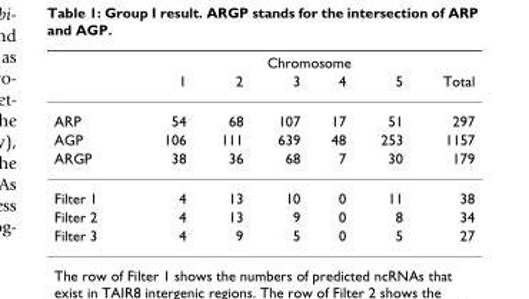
<table><thead><tr><td rowspan="2"></td><td colspan="6">Chromosome</td></tr><tr><td>1</td><td>2</td><td>3</td><td>4</td><td>5</td><td>Total</td></tr></thead><tbody><tr><td>ARP</td><td>54</td><td>68</td><td>107</td><td>17</td><td>51</td><td>297</td></tr><tr><td>AGP</td><td>106</td><td>111</td><td>639</td><td>48</td><td>253</td><td>1157</td></tr><tr><td>ARGP</td><td>38</td><td>36</td><td>68</td><td>7</td><td>30</td><td>179</td></tr><tr><td>Filter 1</td><td>4</td><td>13</td><td>10</td><td>0</td><td>11</td><td>38</td></tr><tr><td>Filter 2</td><td>4</td><td>13</td><td>9</td><td>0</td><td>8</td><td>34</td></tr><tr><td>Filter 3</td><td>4</td><td>9</td><td>5</td><td>0</td><td>5</td><td>27</td></tr></tbody></table>